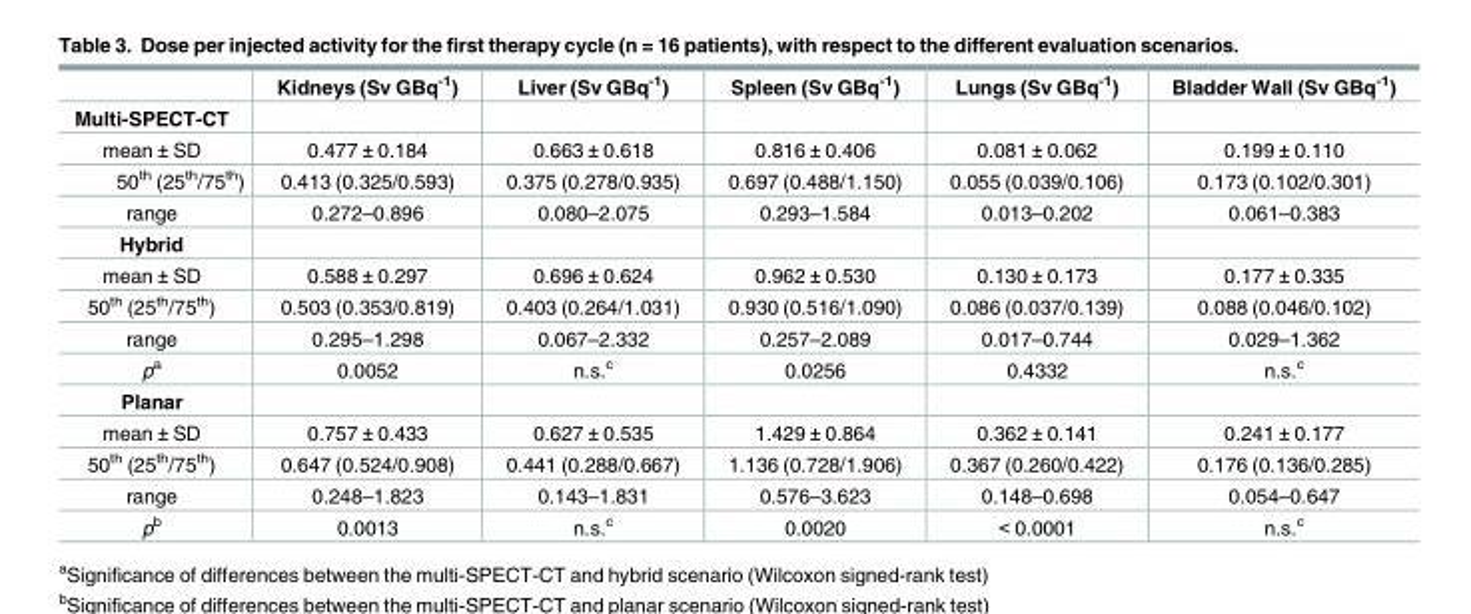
<table><thead><tr><td></td><td>Kidneys (Sv GBq<sup>-1</sup>)</td><td>Liver (Sv GBq<sup>-1</sup>)</td><td>Spleen (Sv GBq<sup>-1</sup>)</td><td>Lungs (Sv GBq<sup>-1</sup>)</td><td>Bladder Wall (Sv GBq<sup>-1</sup>)</td></tr></thead><tbody><tr><td colspan="6">Multi-SPECT-CT</td></tr><tr><td>mean ± SD</td><td>0.477 ± 0.184</td><td>0.663 ± 0.618</td><td>0.816 ± 0.406</td><td>0.081 ± 0.062</td><td>0.199 ± 0.110</td></tr><tr><td>50<sup>th</sup> (25<sup>th</sup>/75<sup>th</sup>)</td><td>0.413 (0.325/0.593)</td><td>0.375 (0.278/0.935)</td><td>0.697 (0.488/1.150)</td><td>0.055 (0.039/0.106)</td><td>0.173 (0.102/0.301)</td></tr><tr><td>range</td><td>0.272–0.896</td><td>0.080–2.075</td><td>0.293–1.584</td><td>0.013–0.202</td><td>0.061–0.383</td></tr><tr><td colspan="6">Hybrid</td></tr><tr><td>mean ± SD</td><td>0.588 ± 0.297</td><td>0.696 ± 0.624</td><td>0.962 ± 0.530</td><td>0.130 ± 0.173</td><td>0.177 ± 0.335</td></tr><tr><td>50<sup>th</sup> (25<sup>th</sup>/75<sup>th</sup>)</td><td>0.503 (0.353/0.819)</td><td>0.403 (0.264/1.031)</td><td>0.930 (0.516/1.090)</td><td>0.086 (0.037/0.139)</td><td>0.088 (0.046/0.102)</td></tr><tr><td>range</td><td>0.295–1.298</td><td>0.067–2.332</td><td>0.257–2.089</td><td>0.017–0.744</td><td>0.029–1.362</td></tr><tr><td>p<sup>a</sup></td><td>0.0052</td><td>n.s.<sup>c</sup></td><td>0.0256</td><td>0.4332</td><td>n.s.<sup>c</sup></td></tr><tr><td colspan="6">Planar</td></tr><tr><td>mean ± SD</td><td>0.757 ± 0.433</td><td>0.627 ± 0.535</td><td>1.429 ± 0.864</td><td>0.362 ± 0.141</td><td>0.241 ± 0.177</td></tr><tr><td>50<sup>th</sup> (25<sup>th</sup>/75<sup>th</sup>)</td><td>0.647 (0.524/0.908)</td><td>0.441 (0.288/0.667)</td><td>1.136 (0.728/1.906)</td><td>0.367 (0.260/0.422)</td><td>0.176 (0.136/0.285)</td></tr><tr><td>range</td><td>0.248–1.823</td><td>0.143–1.831</td><td>0.576–3.623</td><td>0.148–0.698</td><td>0.054–0.647</td></tr><tr><td>p<sup>b</sup></td><td>0.0013</td><td>n.s.<sup>c</sup></td><td>0.0020</td><td>&lt; 0.0001</td><td>n.s.<sup>c</sup></td></tr></tbody></table>